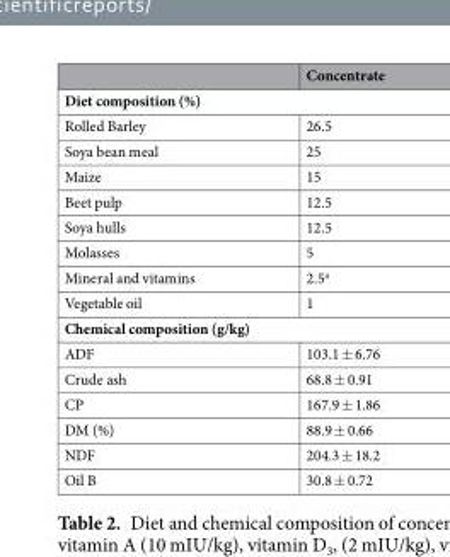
<table><thead><tr><td></td><td>Concentrate</td></tr></thead><tbody><tr><td colspan="2">Diet composition (%)</td></tr><tr><td>Rolled Barley</td><td>26.5</td></tr><tr><td>Soya bean meal</td><td>25</td></tr><tr><td>Maize</td><td>15</td></tr><tr><td>Beet pulp</td><td>12.5</td></tr><tr><td>Soya hulls</td><td>12.5</td></tr><tr><td>Molasses</td><td>5</td></tr><tr><td>Mineral and vitamins</td><td>2.5<sup>a</sup></td></tr><tr><td>Vegetable oil</td><td>1</td></tr><tr><td colspan="2">Chemical composition (g/kg)</td></tr><tr><td>ADF</td><td>103.1 ± 6.76</td></tr><tr><td>Crude ash</td><td>68.8 ± 0.91</td></tr><tr><td>CP</td><td>167.9 ± 1.86</td></tr><tr><td>DM (%)</td><td>88.9 ± 0.66</td></tr><tr><td>NDF</td><td>204.3 ± 18.2</td></tr><tr><td>Oil B</td><td>30.8 ± 0.72</td></tr></tbody></table>